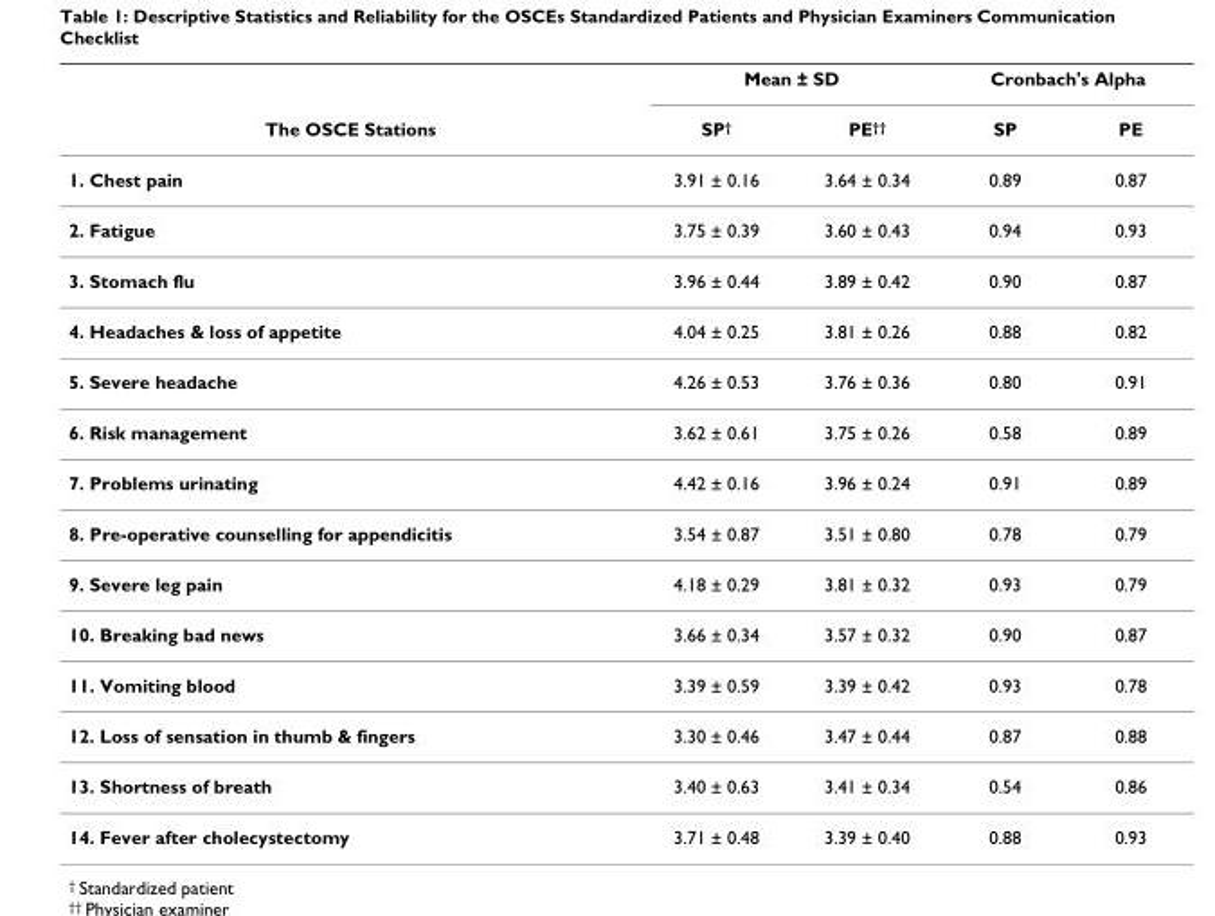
<table><thead><tr><td rowspan="2">The OSCE Stations</td><td colspan="2">Mean ± SD</td><td colspan="2">Cronbach&#x27;s Alpha</td></tr><tr><td>SP<sup>†</sup></td><td>PE<sup>††</sup></td><td>SP</td><td>PE</td></tr></thead><tbody><tr><td>1. Chest pain</td><td>3.91 ± 0.16</td><td>3.64 ± 0.34</td><td>0.89</td><td>0.87</td></tr><tr><td>2. Fatigue</td><td>3.75 ± 0.39</td><td>3.60 ± 0.43</td><td>0.94</td><td>0.93</td></tr><tr><td>3. Stomach flu</td><td>3.96 ± 0.44</td><td>3.89 ± 0.42</td><td>0.90</td><td>0.87</td></tr><tr><td>4. Headaches &amp; loss of appetite</td><td>4.04 ± 0.25</td><td>3.81 ± 0.26</td><td>0.88</td><td>0.82</td></tr><tr><td>5. Severe headache</td><td>4.26 ± 0.53</td><td>3.76 ± 0.36</td><td>0.80</td><td>0.91</td></tr><tr><td>6. Risk management</td><td>3.62 ± 0.61</td><td>3.75 ± 0.26</td><td>0.58</td><td>0.89</td></tr><tr><td>7. Problems urinating</td><td>4.42 ± 0.16</td><td>3.96 ± 0.24</td><td>0.91</td><td>0.89</td></tr><tr><td>8. Pre-operative counselling for appendicitis</td><td>3.54 ± 0.87</td><td>3.51 ± 0.80</td><td>0.78</td><td>0.79</td></tr><tr><td>9. Severe leg pain</td><td>4.18 ± 0.29</td><td>3.81 ± 0.32</td><td>0.93</td><td>0.79</td></tr><tr><td>10. Breaking bad news</td><td>3.66 ± 0.34</td><td>3.57 ± 0.32</td><td>0.90</td><td>0.87</td></tr><tr><td>11. Vomiting blood</td><td>3.39 ± 0.59</td><td>3.39 ± 0.42</td><td>0.93</td><td>0.78</td></tr><tr><td>12. Loss of sensation in thumb &amp; fingers</td><td>3.30 ± 0.46</td><td>3.47 ± 0.44</td><td>0.87</td><td>0.88</td></tr><tr><td>13. Shortness of breath</td><td>3.40 ± 0.63</td><td>3.41 ± 0.34</td><td>0.54</td><td>0.86</td></tr><tr><td>14. Fever after cholecystectomy</td><td>3.71 ± 0.48</td><td>3.39 ± 0.40</td><td>0.88</td><td>0.93</td></tr></tbody></table>